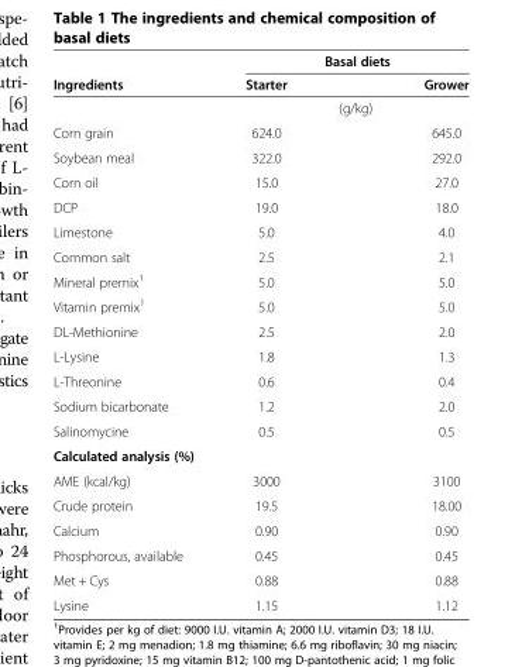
<table><thead><tr><td rowspan="2">Ingredients</td><td colspan="3">Basal diets</td></tr><tr><td>Starter</td><td></td><td>Grower</td></tr></thead><tbody><tr><td></td><td></td><td>(g/kg)</td><td></td></tr><tr><td>Corn grain</td><td>624.0</td><td></td><td>645.0</td></tr><tr><td>Soybean meal</td><td>322.0</td><td></td><td>292.0</td></tr><tr><td>Corn oil</td><td>15.0</td><td></td><td>27.0</td></tr><tr><td>DCP</td><td>19.0</td><td></td><td>18.0</td></tr><tr><td>Limestone</td><td>5.0</td><td></td><td>4.0</td></tr><tr><td>Common salt</td><td>2.5</td><td></td><td>2.1</td></tr><tr><td>Mineral premix<sup>1</sup></td><td>5.0</td><td></td><td>5.0</td></tr><tr><td>Vitamin premix<sup>1</sup></td><td>5.0</td><td></td><td>5.0</td></tr><tr><td>DL-Methionine</td><td>2.5</td><td></td><td>2.0</td></tr><tr><td>L-Lysine</td><td>1.8</td><td></td><td>1.3</td></tr><tr><td>L-Threonine</td><td>0.6</td><td></td><td>0.4</td></tr><tr><td>Sodium bicarbonate</td><td>1.2</td><td></td><td>2.0</td></tr><tr><td>Salinomycine</td><td>0.5</td><td></td><td>0.5</td></tr><tr><td colspan="4">Calculated analysis (%)</td></tr><tr><td>AME (kcal/kg)</td><td>3000</td><td></td><td>3100</td></tr><tr><td>Crude protein</td><td>19.5</td><td></td><td>18.00</td></tr><tr><td>Calcium</td><td>0.90</td><td></td><td>0.90</td></tr><tr><td>Phosphorous, available</td><td>0.45</td><td></td><td>0.45</td></tr><tr><td>Met + Cys</td><td>0.88</td><td></td><td>0.88</td></tr><tr><td>Lysine</td><td>1.15</td><td></td><td>1.12</td></tr></tbody></table>